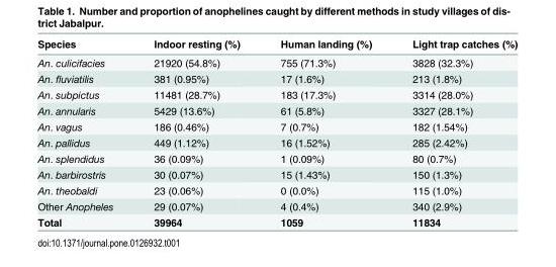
<table><thead><tr><td>Species</td><td>Indoor resting (%)</td><td>Human landing (%)</td><td>Light trap catches (%)</td></tr></thead><tbody><tr><td>An. culicifacies</td><td>21920 (54.8%)</td><td>755 (71.3%)</td><td>3828 (32.3%)</td></tr><tr><td>An. fluviatilis</td><td>381 (0.95%)</td><td>17 (1.6%)</td><td>213 (1.8%)</td></tr><tr><td>An. subpictus</td><td>11481 (28.7%)</td><td>183 (17.3%)</td><td>3314 (28.0%)</td></tr><tr><td>An. annularis</td><td>5429 (13.6%)</td><td>61 (5.8%)</td><td>3327 (28.1%)</td></tr><tr><td>An. vagus</td><td>186 (0.46%)</td><td>7 (0.7%)</td><td>182 (1.54%)</td></tr><tr><td>An. pallidus</td><td>449 (1.12%)</td><td>16 (1.52%)</td><td>285 (2.42%)</td></tr><tr><td>An. splendidus</td><td>36 (0.09%)</td><td>1 (0.09%)</td><td>80 (0.7%)</td></tr><tr><td>An. barbirostris</td><td>30 (0.07%)</td><td>15 (1.43%)</td><td>150 (1.3%)</td></tr><tr><td>An. theobaldi</td><td>23 (0.06%)</td><td>0 (0.0%)</td><td>115 (1.0%)</td></tr><tr><td>Other Anopheles</td><td>29 (0.07%)</td><td>4 (0.4%)</td><td>340 (2.9%)</td></tr><tr><td>Total</td><td>39964</td><td>1059</td><td>11834</td></tr></tbody></table>